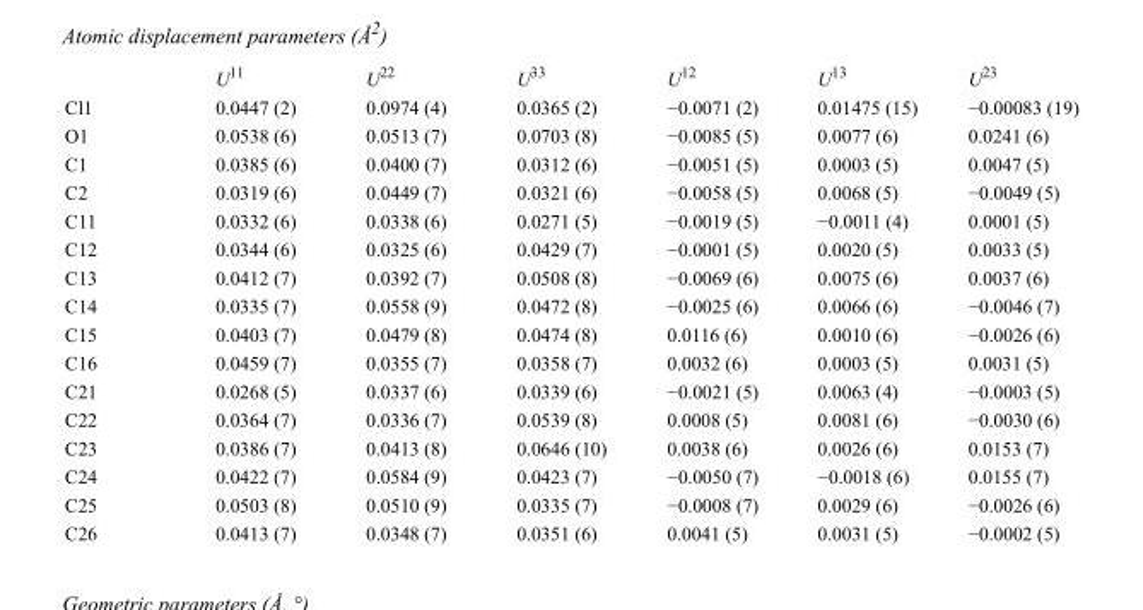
<table><thead><tr><td></td><td>U<sup>11</sup></td><td>U<sup>22</sup></td><td>U<sup>33</sup></td><td>U<sup>12</sup></td><td>U<sup>13</sup></td><td>U<sup>23</sup></td></tr></thead><tbody><tr><td>Cl1</td><td>0.0447 (2)</td><td>0.0974 (4)</td><td>0.0365 (2)</td><td>−0.0071 (2)</td><td>0.01475 (15)</td><td>−0.00083 (19)</td></tr><tr><td>O1</td><td>0.0538 (6)</td><td>0.0513 (7)</td><td>0.0703 (8)</td><td>−0.0085 (5)</td><td>0.0077 (6)</td><td>0.0241 (6)</td></tr><tr><td>C1</td><td>0.0385 (6)</td><td>0.0400 (7)</td><td>0.0312 (6)</td><td>−0.0051 (5)</td><td>0.0003 (5)</td><td>0.0047 (5)</td></tr><tr><td>C2</td><td>0.0319 (6)</td><td>0.0449 (7)</td><td>0.0321 (6)</td><td>−0.0058 (5)</td><td>0.0068 (5)</td><td>−0.0049 (5)</td></tr><tr><td>C11</td><td>0.0332 (6)</td><td>0.0338 (6)</td><td>0.0271 (5)</td><td>−0.0019 (5)</td><td>−0.0011 (4)</td><td>0.0001 (5)</td></tr><tr><td>C12</td><td>0.0344 (6)</td><td>0.0325 (6)</td><td>0.0429 (7)</td><td>−0.0001 (5)</td><td>0.0020 (5)</td><td>0.0033 (5)</td></tr><tr><td>C13</td><td>0.0412 (7)</td><td>0.0392 (7)</td><td>0.0508 (8)</td><td>−0.0069 (6)</td><td>0.0075 (6)</td><td>0.0037 (6)</td></tr><tr><td>C14</td><td>0.0335 (7)</td><td>0.0558 (9)</td><td>0.0472 (8)</td><td>−0.0025 (6)</td><td>0.0066 (6)</td><td>−0.0046 (7)</td></tr><tr><td>C15</td><td>0.0403 (7)</td><td>0.0479 (8)</td><td>0.0474 (8)</td><td>0.0116 (6)</td><td>0.0010 (6)</td><td>−0.0026 (6)</td></tr><tr><td>C16</td><td>0.0459 (7)</td><td>0.0355 (7)</td><td>0.0358 (7)</td><td>0.0032 (6)</td><td>0.0003 (5)</td><td>0.0031 (5)</td></tr><tr><td>C21</td><td>0.0268 (5)</td><td>0.0337 (6)</td><td>0.0339 (6)</td><td>−0.0021 (5)</td><td>0.0063 (4)</td><td>−0.0003 (5)</td></tr><tr><td>C22</td><td>0.0364 (7)</td><td>0.0336 (7)</td><td>0.0539 (8)</td><td>0.0008 (5)</td><td>0.0081 (6)</td><td>−0.0030 (6)</td></tr><tr><td>C23</td><td>0.0386 (7)</td><td>0.0413 (8)</td><td>0.0646 (10)</td><td>0.0038 (6)</td><td>0.0026 (6)</td><td>0.0153 (7)</td></tr><tr><td>C24</td><td>0.0422 (7)</td><td>0.0584 (9)</td><td>0.0423 (7)</td><td>−0.0050 (7)</td><td>−0.0018 (6)</td><td>0.0155 (7)</td></tr><tr><td>C25</td><td>0.0503 (8)</td><td>0.0510 (9)</td><td>0.0335 (7)</td><td>−0.0008 (7)</td><td>0.0029 (6)</td><td>−0.0026 (6)</td></tr><tr><td>C26</td><td>0.0413 (7)</td><td>0.0348 (7)</td><td>0.0351 (6)</td><td>0.0041 (5)</td><td>0.0031 (5)</td><td>−0.0002 (5)</td></tr></tbody></table>